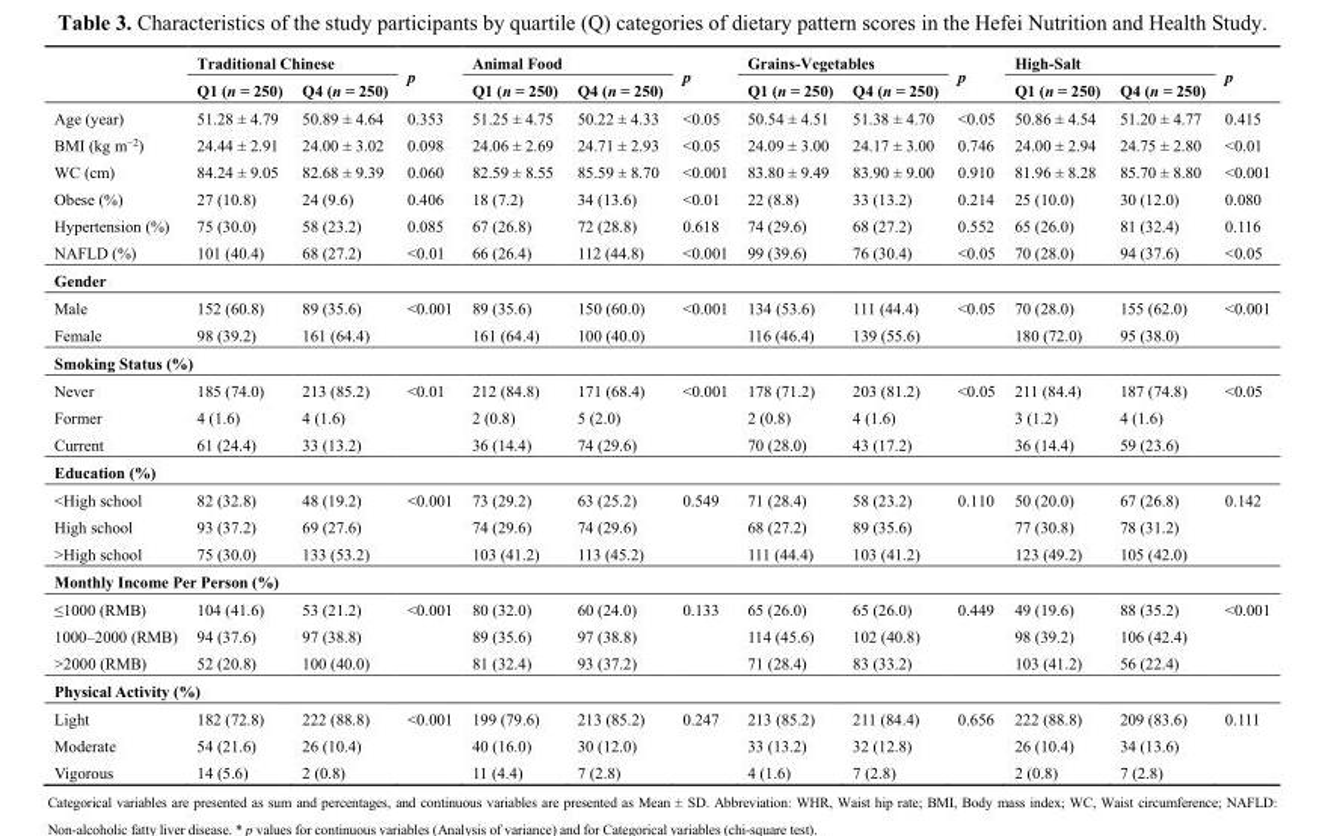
<table><thead><tr><td rowspan="2"></td><td colspan="2">Traditional Chinese</td><td rowspan="2">p</td><td colspan="2">Animal Food</td><td rowspan="2">p</td><td colspan="2">Grains-Vegetables</td><td rowspan="2">p</td><td colspan="2">High-Salt</td><td rowspan="2">p</td></tr><tr><td>Q1 (n = 250)</td><td>Q4 (n = 250)</td><td>Q1 (n = 250)</td><td>Q4 (n = 250)</td><td>Q1 (n = 250)</td><td>Q4 (n = 250)</td><td>Q1 (n = 250)</td><td>Q4 (n = 250)</td></tr></thead><tbody><tr><td>Age (year)</td><td>51.28 ± 4.79</td><td>50.89 ± 4.64</td><td>0.353</td><td>51.25 ± 4.75</td><td>50.22 ± 4.33</td><td>&lt;0.05</td><td>50.54 ± 4.51</td><td>51.38 ± 4.70</td><td>&lt;0.05</td><td>50.86 ± 4.54</td><td>51.20 ± 4.77</td><td>0.415</td></tr><tr><td>BMI (kg m<sup>−2</sup>)</td><td>24.44 ± 2.91</td><td>24.00 ± 3.02</td><td>0.098</td><td>24.06 ± 2.69</td><td>24.71 ± 2.93</td><td>&lt;0.05</td><td>24.09 ± 3.00</td><td>24.17 ± 3.00</td><td>0.746</td><td>24.00 ± 2.94</td><td>24.75 ± 2.80</td><td>&lt;0.01</td></tr><tr><td>WC (cm)</td><td>84.24 ± 9.05</td><td>82.68 ± 9.39</td><td>0.060</td><td>82.59 ± 8.55</td><td>85.59 ± 8.70</td><td>&lt;0.001</td><td>83.80 ± 9.49</td><td>83.90 ± 9.00</td><td>0.910</td><td>81.96 ± 8.28</td><td>85.70 ± 8.80</td><td>&lt;0.001</td></tr><tr><td>Obese (%)</td><td>27 (10.8)</td><td>24 (9.6)</td><td>0.406</td><td>18 (7.2)</td><td>34 (13.6)</td><td>&lt;0.01</td><td>22 (8.8)</td><td>33 (13.2)</td><td>0.214</td><td>25 (10.0)</td><td>30 (12.0)</td><td>0.080</td></tr><tr><td>Hypertension (%)</td><td>75 (30.0)</td><td>58 (23.2)</td><td>0.085</td><td>67 (26.8)</td><td>72 (28.8)</td><td>0.618</td><td>74 (29.6)</td><td>68 (27.2)</td><td>0.552</td><td>65 (26.0)</td><td>81 (32.4)</td><td>0.116</td></tr><tr><td>NAFLD (%)</td><td>101 (40.4)</td><td>68 (27.2)</td><td>&lt;0.01</td><td>66 (26.4)</td><td>112 (44.8)</td><td>&lt;0.001</td><td>99 (39.6)</td><td>76 (30.4)</td><td>&lt;0.05</td><td>70 (28.0)</td><td>94 (37.6)</td><td>&lt;0.05</td></tr><tr><td colspan="13">Gender</td></tr><tr><td>Male</td><td>152 (60.8)</td><td>89 (35.6)</td><td>&lt;0.001</td><td>89 (35.6)</td><td>150 (60.0)</td><td>&lt;0.001</td><td>134 (53.6)</td><td>111 (44.4)</td><td>&lt;0.05</td><td>70 (28.0)</td><td>155 (62.0)</td><td>&lt;0.001</td></tr><tr><td>Female</td><td>98 (39.2)</td><td>161 (64.4)</td><td></td><td>161 (64.4)</td><td>100 (40.0)</td><td></td><td>116 (46.4)</td><td>139 (55.6)</td><td></td><td>180 (72.0)</td><td>95 (38.0)</td><td></td></tr><tr><td colspan="13">Smoking Status (%)</td></tr><tr><td>Never</td><td>185 (74.0)</td><td>213 (85.2)</td><td>&lt;0.01</td><td>212 (84.8)</td><td>171 (68.4)</td><td>&lt;0.001</td><td>178 (71.2)</td><td>203 (81.2)</td><td>&lt;0.05</td><td>211 (84.4)</td><td>187 (74.8)</td><td>&lt;0.05</td></tr><tr><td>Former</td><td>4 (1.6)</td><td>4 (1.6)</td><td></td><td>2 (0.8)</td><td>5 (2.0)</td><td></td><td>2 (0.8)</td><td>4 (1.6)</td><td></td><td>3 (1.2)</td><td>4 (1.6)</td><td></td></tr><tr><td>Current</td><td>61 (24.4)</td><td>33 (13.2)</td><td></td><td>36 (14.4)</td><td>74 (29.6)</td><td></td><td>70 (28.0)</td><td>43 (17.2)</td><td></td><td>36 (14.4)</td><td>59 (23.6)</td><td></td></tr><tr><td colspan="13">Education (%)</td></tr><tr><td>&lt;High school</td><td>82 (32.8)</td><td>48 (19.2)</td><td>&lt;0.001</td><td>73 (29.2)</td><td>63 (25.2)</td><td>0.549</td><td>71 (28.4)</td><td>58 (23.2)</td><td>0.110</td><td>50 (20.0)</td><td>67 (26.8)</td><td>0.142</td></tr><tr><td>High school</td><td>93 (37.2)</td><td>69 (27.6)</td><td></td><td>74 (29.6)</td><td>74 (29.6)</td><td></td><td>68 (27.2)</td><td>89 (35.6)</td><td></td><td>77 (30.8)</td><td>78 (31.2)</td><td></td></tr><tr><td>&gt;High school</td><td>75 (30.0)</td><td>133 (53.2)</td><td></td><td>103 (41.2)</td><td>113 (45.2)</td><td></td><td>111 (44.4)</td><td>103 (41.2)</td><td></td><td>123 (49.2)</td><td>105 (42.0)</td><td></td></tr><tr><td colspan="13">Monthly Income Per Person (%)</td></tr><tr><td>≤1000 (RMB)</td><td>104 (41.6)</td><td>53 (21.2)</td><td>&lt;0.001</td><td>80 (32.0)</td><td>60 (24.0)</td><td>0.133</td><td>65 (26.0)</td><td>65 (26.0)</td><td>0.449</td><td>49 (19.6)</td><td>88 (35.2)</td><td>&lt;0.001</td></tr><tr><td>1000–2000 (RMB)</td><td>94 (37.6)</td><td>97 (38.8)</td><td></td><td>89 (35.6)</td><td>97 (38.8)</td><td></td><td>114 (45.6)</td><td>102 (40.8)</td><td></td><td>98 (39.2)</td><td>106 (42.4)</td><td></td></tr><tr><td>&gt;2000 (RMB)</td><td>52 (20.8)</td><td>100 (40.0)</td><td></td><td>81 (32.4)</td><td>93 (37.2)</td><td></td><td>71 (28.4)</td><td>83 (33.2)</td><td></td><td>103 (41.2)</td><td>56 (22.4)</td><td></td></tr><tr><td colspan="13">Physical Activity (%)</td></tr><tr><td>Light</td><td>182 (72.8)</td><td>222 (88.8)</td><td>&lt;0.001</td><td>199 (79.6)</td><td>213 (85.2)</td><td>0.247</td><td>213 (85.2)</td><td>211 (84.4)</td><td>0.656</td><td>222 (88.8)</td><td>209 (83.6)</td><td>0.111</td></tr><tr><td>Moderate</td><td>54 (21.6)</td><td>26 (10.4)</td><td></td><td>40 (16.0)</td><td>30 (12.0)</td><td></td><td>33 (13.2)</td><td>32 (12.8)</td><td></td><td>26 (10.4)</td><td>34 (13.6)</td><td></td></tr><tr><td>Vigorous</td><td>14 (5.6)</td><td>2 (0.8)</td><td></td><td>11 (4.4)</td><td>7 (2.8)</td><td></td><td>4 (1.6)</td><td>7 (2.8)</td><td></td><td>2 (0.8)</td><td>7 (2.8)</td><td></td></tr></tbody></table>